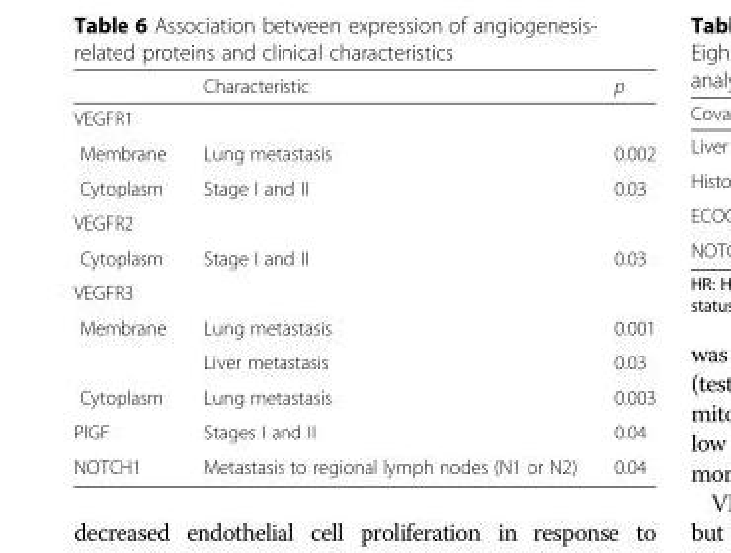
<table><thead><tr><td></td><td>Characteristic</td><td>p</td></tr></thead><tbody><tr><td colspan="3">VEGFR1</td></tr><tr><td>Membrane</td><td>Lung metastasis</td><td>0.002</td></tr><tr><td>Cytoplasm</td><td>Stage I and II</td><td>0.03</td></tr><tr><td colspan="3">VEGFR2</td></tr><tr><td>Cytoplasm</td><td>Stage I and II</td><td>0.03</td></tr><tr><td colspan="3">VEGFR3</td></tr><tr><td rowspan="2">Membrane</td><td>Lung metastasis</td><td>0.001</td></tr><tr><td>Liver metastasis</td><td>0.03</td></tr><tr><td>Cytoplasm</td><td>Lung metastasis</td><td>0.003</td></tr><tr><td>PlGF</td><td>Stages I and II</td><td>0.04</td></tr><tr><td>NOTCH1</td><td>Metastasis to regional lymph nodes (N1 or N2)</td><td>0.04</td></tr></tbody></table>